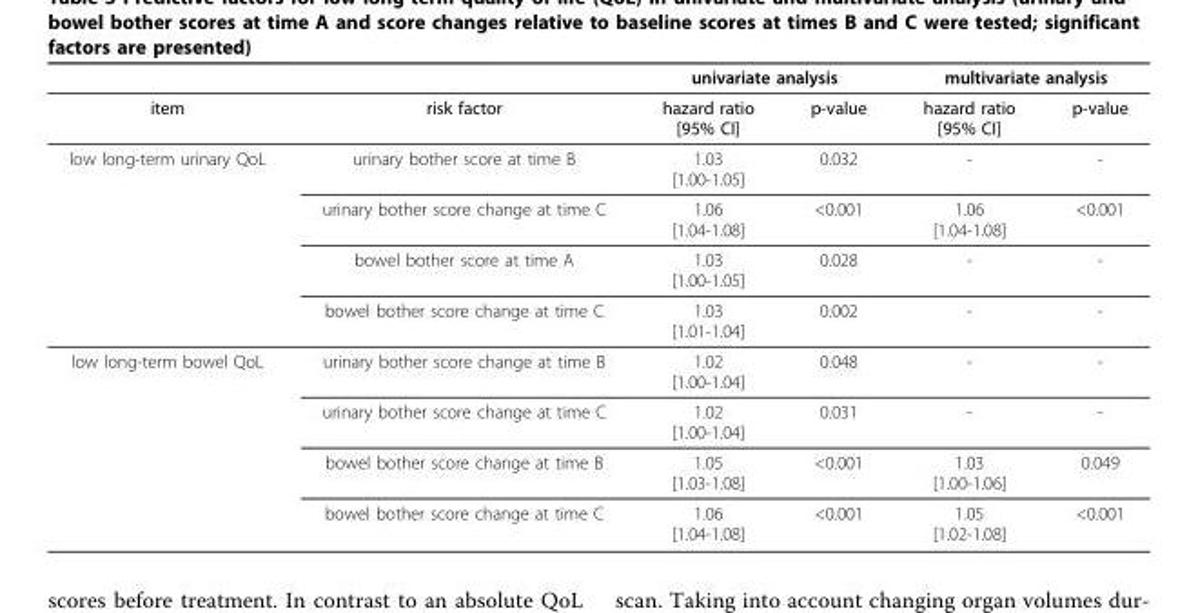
<table><thead><tr><td rowspan="2">item</td><td rowspan="2">risk factor</td><td colspan="2">univariate analysis</td><td colspan="2">multivariate analysis</td></tr><tr><td>hazard ratio [95% CI]</td><td>p-value</td><td>hazard ratio [95% CI]</td><td>p-value</td></tr></thead><tbody><tr><td rowspan="4">low long-term urinary QoL</td><td>urinary bother score at time B</td><td>1.03 [1.00-1.05]</td><td>0.032</td><td>-</td><td>-</td></tr><tr><td>urinary bother score change at time C</td><td>1.06 [1.04-1.08]</td><td>&lt;0.001</td><td>1.06 [1.04-1.08]</td><td>&lt;0.001</td></tr><tr><td>bowel bother score at time A</td><td>1.03 [1.00-1.05]</td><td>0.028</td><td>-</td><td>-</td></tr><tr><td>bowel bother score change at time C</td><td>1.03 [1.01-1.04]</td><td>0.002</td><td>-</td><td>-</td></tr><tr><td rowspan="4">low long-term bowel QoL</td><td>urinary bother score change at time B</td><td>1.02 [1.00-1.04]</td><td>0.048</td><td>-</td><td>-</td></tr><tr><td>urinary bother score change at time C</td><td>1.02 [1.00-1.04]</td><td>0.031</td><td>-</td><td>-</td></tr><tr><td>bowel bother score change at time B</td><td>1.05 [1.03-1.08]</td><td>&lt;0.001</td><td>1.03 [1.00-1.06]</td><td>0.049</td></tr><tr><td>bowel bother score change at time C</td><td>1.06 [1.04-1.08]</td><td>&lt;0.001</td><td>1.05 [1.02-1.08]</td><td>&lt;0.001</td></tr></tbody></table>